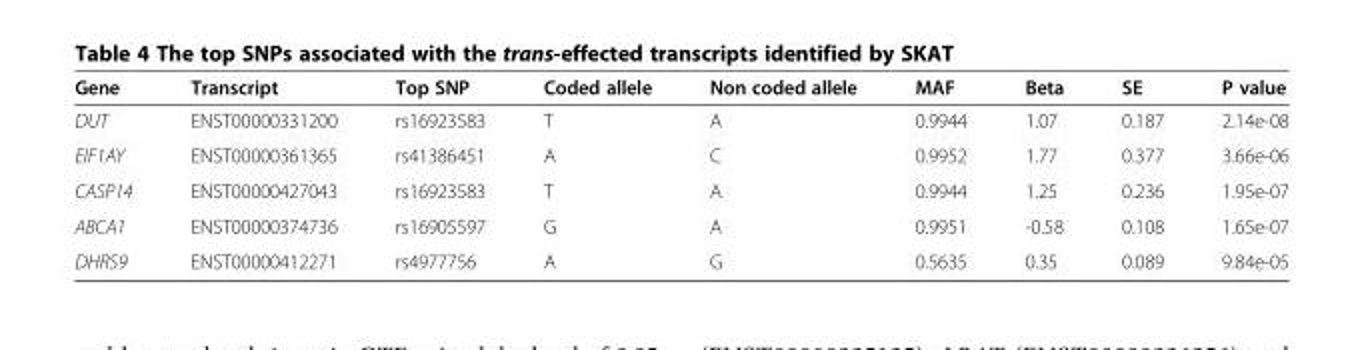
<table><thead><tr><td>Gene</td><td>Transcript</td><td>Top SNP</td><td>Coded allele</td><td>Non coded allele</td><td>MAF</td><td>Beta</td><td>SE</td><td>P value</td></tr></thead><tbody><tr><td>DUT</td><td>ENST00000331200</td><td>rs16923583</td><td>T</td><td>A</td><td>0.9944</td><td>1.07</td><td>0.187</td><td>2.14e-08</td></tr><tr><td>EIF1AY</td><td>ENST00000361365</td><td>rs41386451</td><td>A</td><td>C</td><td>0.9952</td><td>1.77</td><td>0.377</td><td>3.66e-06</td></tr><tr><td>CASP14</td><td>ENST00000427043</td><td>rs16923583</td><td>T</td><td>A</td><td>0.9944</td><td>1.25</td><td>0.236</td><td>1.95e-07</td></tr><tr><td>ABCA1</td><td>ENST00000374736</td><td>rs16905597</td><td>G</td><td>A</td><td>0.9951</td><td>-0.58</td><td>0.108</td><td>1.65e-07</td></tr><tr><td>DHRS9</td><td>ENST00000412271</td><td>rs4977756</td><td>A</td><td>G</td><td>0.5635</td><td>0.35</td><td>0.089</td><td>9.84e-05</td></tr></tbody></table>